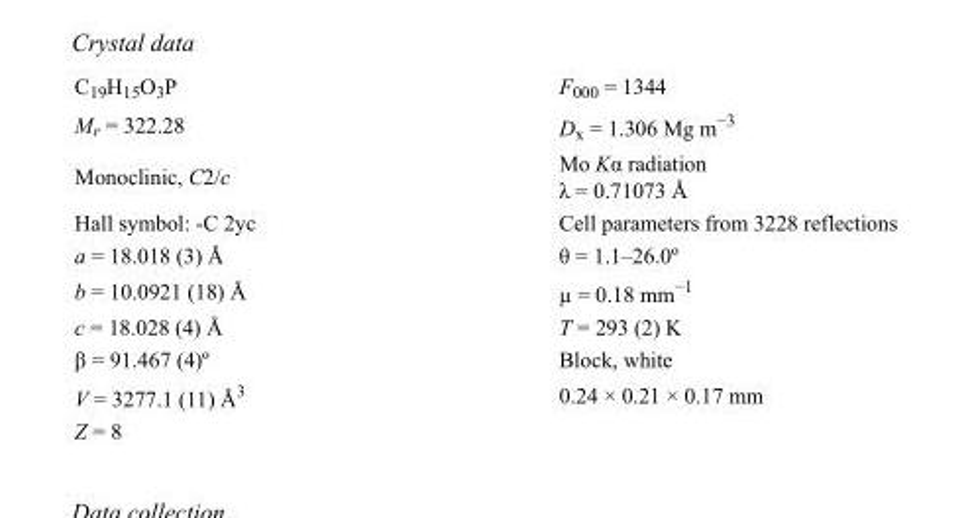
<table><tbody><tr><td>C<sub>19</sub>H<sub>15</sub>O<sub>3</sub>P</td><td>F000 = 1344</td></tr><tr><td>M<sub>r</sub> = 322.28</td><td>D<sub>x</sub> = 1.306 Mg m<sup>−3</sup></td></tr><tr><td>Monoclinic, C2/c</td><td>Mo Kα radiation λ = 0.71073 Å</td></tr><tr><td>Hall symbol: -C 2yc</td><td>Cell parameters from 3228 reflections</td></tr><tr><td>a = 18.018 (3) Å</td><td>θ = 1.1–26.0º</td></tr><tr><td>b = 10.0921 (18) Å</td><td>µ = 0.18 mm<sup>−1</sup></td></tr><tr><td>c = 18.028 (4) Å</td><td>T = 293 (2) K</td></tr><tr><td>β = 91.467 (4)º</td><td>Block, white</td></tr><tr><td>V = 3277.1 (11) Å<sup>3</sup></td><td>0.24 × 0.21 × 0.17 mm</td></tr><tr><td>Z = 8</td><td></td></tr></tbody></table>